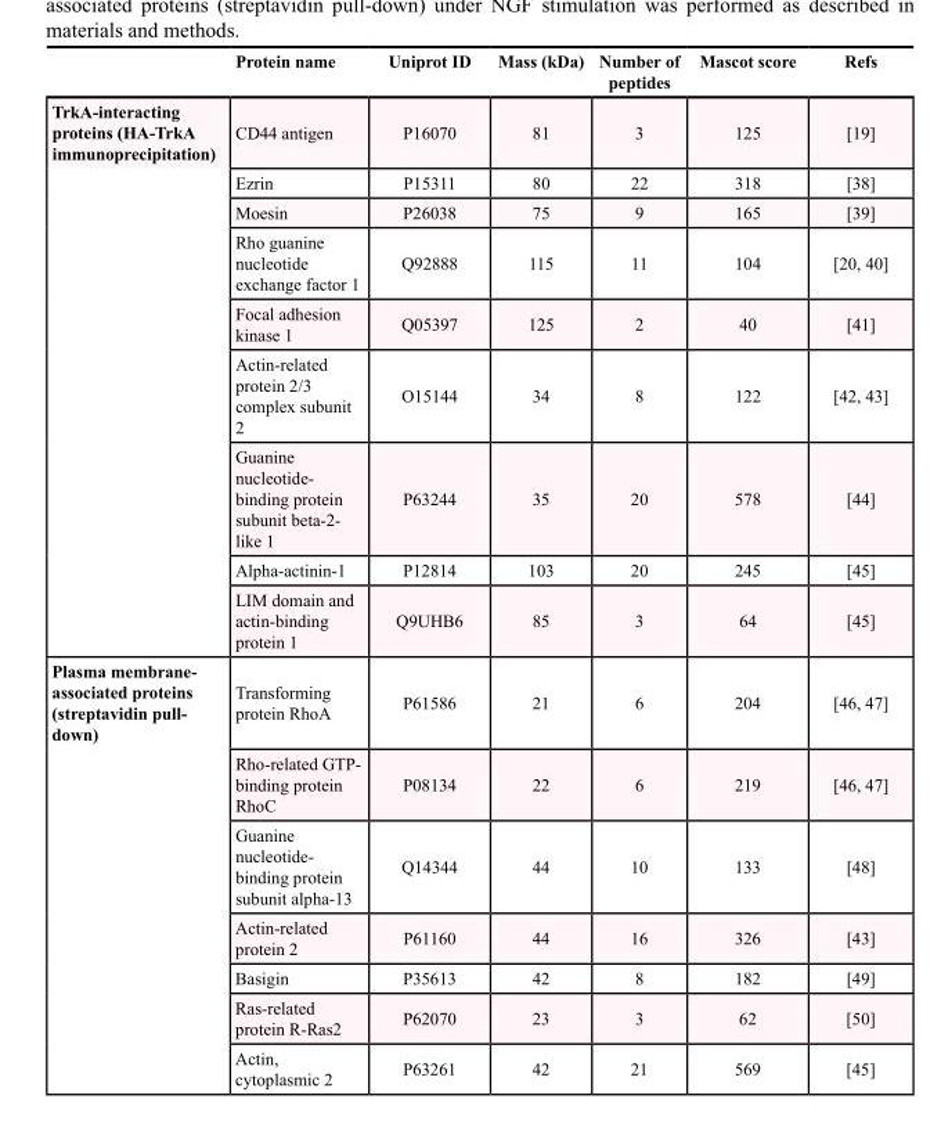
<table><thead><tr><td></td><td>Protein name</td><td>Uniprot ID</td><td>Mass (kDa)</td><td>Number of peptides</td><td>Mascot score</td><td>Refs</td></tr></thead><tbody><tr><td rowspan="9">TrkA-interacting proteins (HA-TrkA immunoprecipitation)</td><td>CD44 antigen</td><td>P16070</td><td>81</td><td>3</td><td>125</td><td>[19]</td></tr><tr><td>Ezrin</td><td>P15311</td><td>80</td><td>22</td><td>318</td><td>[38]</td></tr><tr><td>Moesin</td><td>P26038</td><td>75</td><td>9</td><td>165</td><td>[39]</td></tr><tr><td>Rho guanine nucleotide exchange factor 1</td><td>Q92888</td><td>115</td><td>11</td><td>104</td><td>[20, 40]</td></tr><tr><td>Focal adhesion kinase 1</td><td>Q05397</td><td>125</td><td>2</td><td>40</td><td>[41]</td></tr><tr><td>Actin-related protein 2/3 complex subunit 2</td><td>O15144</td><td>34</td><td>8</td><td>122</td><td>[42, 43]</td></tr><tr><td>Guanine nucleotide- binding protein subunit beta-2- like 1</td><td>P63244</td><td>35</td><td>20</td><td>578</td><td>[44]</td></tr><tr><td>Alpha-actinin-1</td><td>P12814</td><td>103</td><td>20</td><td>245</td><td>[45]</td></tr><tr><td>LIM domain and actin-binding protein 1</td><td>Q9UHB6</td><td>85</td><td>3</td><td>64</td><td>[45]</td></tr><tr><td rowspan="7">Plasma membrane- associated proteins (streptavidin pull- down)</td><td>Transforming protein RhoA</td><td>P61586</td><td>21</td><td>6</td><td>204</td><td>[46, 47]</td></tr><tr><td>Rho-related GTP- binding protein RhoC</td><td>P08134</td><td>22</td><td>6</td><td>219</td><td>[46, 47]</td></tr><tr><td>Guanine nucleotide- binding protein subunit alpha-13</td><td>Q14344</td><td>44</td><td>10</td><td>133</td><td>[48]</td></tr><tr><td>Actin-related protein 2</td><td>P61160</td><td>44</td><td>16</td><td>326</td><td>[43]</td></tr><tr><td>Basigin</td><td>P35613</td><td>42</td><td>8</td><td>182</td><td>[49]</td></tr><tr><td>Ras-related protein R-Ras2</td><td>P62070</td><td>23</td><td>3</td><td>62</td><td>[50]</td></tr><tr><td>Actin, cytoplasmic 2</td><td>P63261</td><td>42</td><td>21</td><td>569</td><td>[45]</td></tr></tbody></table>